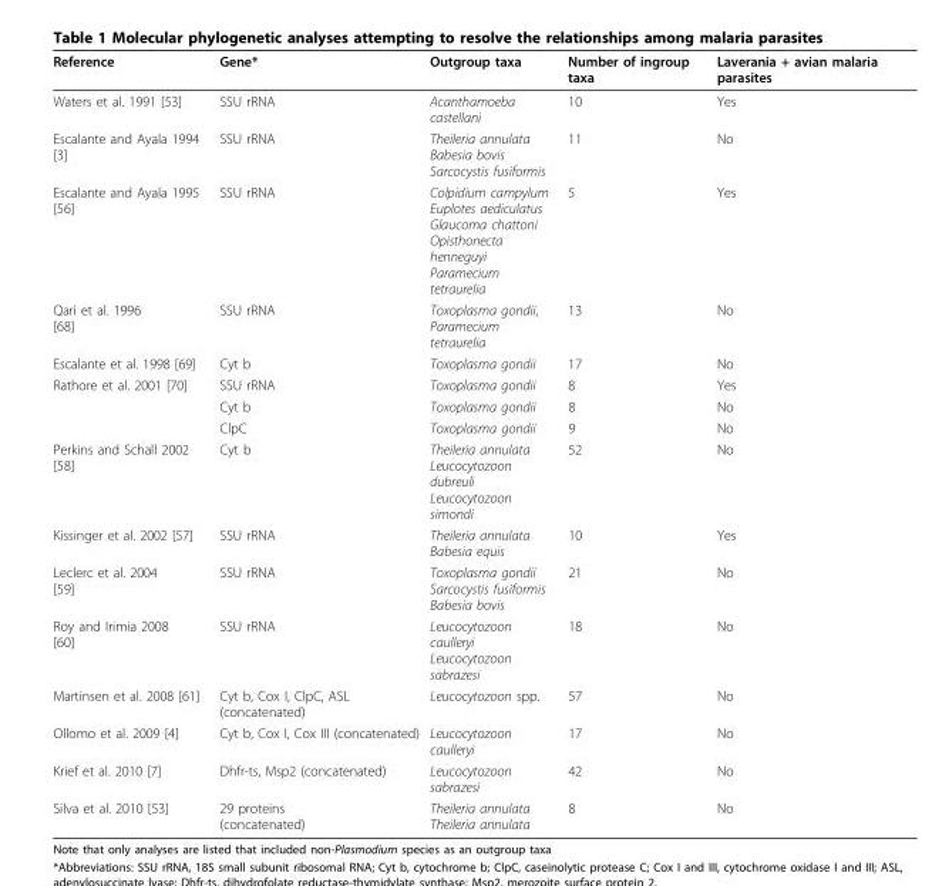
<table><thead><tr><td>Reference</td><td>Gene*</td><td>Outgroup taxa</td><td>Number of ingroup taxa</td><td>Laverania + avian malaria parasites</td></tr></thead><tbody><tr><td>Waters et al. 1991 [53]</td><td>SSU rRNA</td><td>Acanthamoeba castellani</td><td>10</td><td>Yes</td></tr><tr><td>Escalante and Ayala 1994 [3]</td><td>SSU rRNA</td><td>Theileria annulata Babesia bovis Sarcocystis fusiformis</td><td>11</td><td>No</td></tr><tr><td>Escalante and Ayala 1995 [56]</td><td>SSU rRNA</td><td>Colpidium campylum Euplotes aediculatus Glaucoma chattoni Opisthonecta henneguyi Paramecium tetraurelia</td><td>5</td><td>Yes</td></tr><tr><td>Qari et al. 1996 [68]</td><td>SSU rRNA</td><td>Toxoplasma gondii, Paramecium tetraurelia</td><td>13</td><td>No</td></tr><tr><td>Escalante et al. 1998 [69]</td><td>Cyt b</td><td>Toxoplasma gondii</td><td>17</td><td>No</td></tr><tr><td rowspan="3">Rathore et al. 2001 [70]</td><td>SSU rRNA</td><td>Toxoplasma gondii</td><td>8</td><td>Yes</td></tr><tr><td>Cyt b</td><td>Toxoplasma gondii</td><td>8</td><td>No</td></tr><tr><td>ClpC</td><td>Toxoplasma gondii</td><td>9</td><td>No</td></tr><tr><td>Perkins and Schall 2002 [58]</td><td>Cyt b</td><td>Theileria annulata Leucocytozoon dubreuli Leucocytozoon simondi</td><td>52</td><td>No</td></tr><tr><td>Kissinger et al. 2002 [57]</td><td>SSU rRNA</td><td>Theileria annulata Babesia equis</td><td>10</td><td>Yes</td></tr><tr><td>Leclerc et al. 2004 [59]</td><td>SSU rRNA</td><td>Toxoplasma gondii Sarcocystis fusiformis Babesia bovis</td><td>21</td><td>No</td></tr><tr><td>Roy and Irimia 2008 [60]</td><td>SSU rRNA</td><td>Leucocytozoon caulleryi Leucocytozoon sabrazesi</td><td>18</td><td>No</td></tr><tr><td>Martinsen et al. 2008 [61]</td><td>Cyt b, Cox I, ClpC, ASL (concatenated)</td><td>Leucocytozoon spp.</td><td>57</td><td>No</td></tr><tr><td>Ollomo et al. 2009 [4]</td><td>Cyt b, Cox I, Cox III (concatenated)</td><td>Leucocytozoon caulleryi</td><td>17</td><td>No</td></tr><tr><td>Krief et al. 2010 [7]</td><td>Dhfr-ts, Msp2 (concatenated)</td><td>Leucocytozoon sabrazesi</td><td>42</td><td>No</td></tr><tr><td>Silva et al. 2010 [53]</td><td>29 proteins (concatenated)</td><td>Theileria annulata Theileria annulata</td><td>8</td><td>No</td></tr></tbody></table>